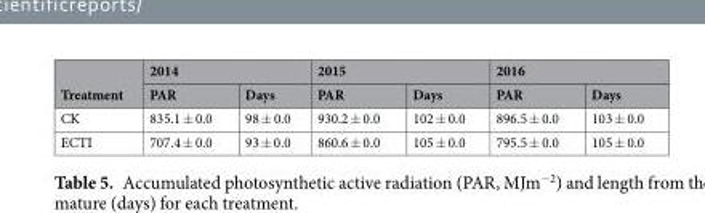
<table><thead><tr><td rowspan="2">Treatment</td><td colspan="2">2014</td><td colspan="2">2015</td><td colspan="2">2016</td></tr><tr><td>PAR</td><td>Days</td><td>PAR</td><td>Days</td><td>PAR</td><td>Days</td></tr></thead><tbody><tr><td>CK</td><td>835.1 ± 0.0</td><td>98 ± 0.0</td><td>930.2 ± 0.0</td><td>102 ± 0.0</td><td>896.5 ± 0.0</td><td>103 ± 0.0</td></tr><tr><td>ECTI</td><td>707.4 ± 0.0</td><td>93 ± 0.0</td><td>860.6 ± 0.0</td><td>105 ± 0.0</td><td>795.5 ± 0.0</td><td>105 ± 0.0</td></tr></tbody></table>